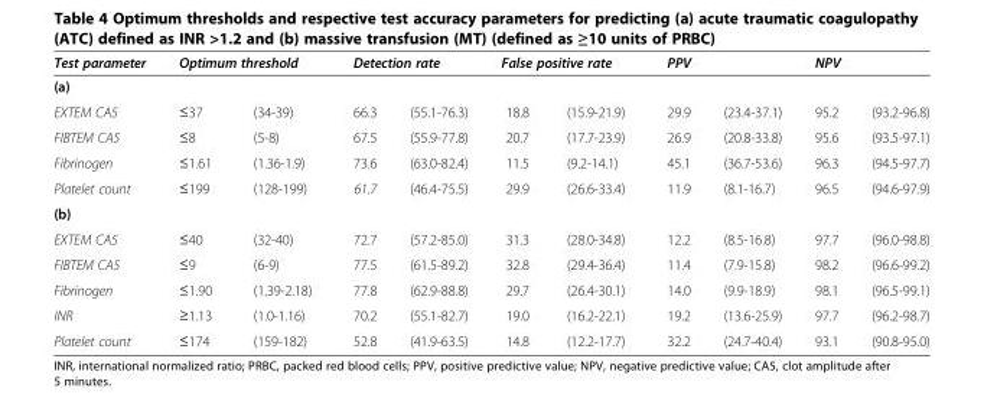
<table><thead><tr><td rowspan="3">Test parameter (a) EXTEM CA5</td><td colspan="2">Optimum threshold</td><td colspan="2">Detection rate</td><td colspan="2">False positive rate</td><td colspan="2">PPV</td><td colspan="2">NPV</td></tr><tr><td colspan="10"></td></tr><tr><td>≤37</td><td>(34-39)</td><td>66.3</td><td>(55.1-76.3)</td><td>18.8</td><td>(15.9-21.9)</td><td>29.9</td><td>(23.4-37.1)</td><td>95.2</td><td>(93.2-96.8)</td></tr></thead><tbody><tr><td>FIBTEM CA5</td><td>≤8</td><td>(5-8)</td><td>67.5</td><td>(55.9-77.8)</td><td>20.7</td><td>(17.7-23.9)</td><td>26.9</td><td>(20.8-33.8)</td><td>95.6</td><td>(93.5-97.1)</td></tr><tr><td>Fibrinogen</td><td>≤1.61</td><td>(1.36-1.9)</td><td>73.6</td><td>(63.0-82.4)</td><td>11.5</td><td>(9.2-14.1)</td><td>45.1</td><td>(36.7-53.6)</td><td>96.3</td><td>(94.5-97.7)</td></tr><tr><td>Platelet count</td><td>≤199</td><td>(128-199)</td><td>61.7</td><td>(46.4-75.5)</td><td>29.9</td><td>(26.6-33.4)</td><td>11.9</td><td>(8.1-16.7)</td><td>96.5</td><td>(94.6-97.9)</td></tr><tr><td colspan="11">(b)</td></tr><tr><td>EXTEM CA5</td><td>≤40</td><td>(32-40)</td><td>72.7</td><td>(57.2-85.0)</td><td>31.3</td><td>(28.0-34.8)</td><td>12.2</td><td>(8.5-16.8)</td><td>97.7</td><td>(96.0-98.8)</td></tr><tr><td>FIBTEM CA5</td><td>≤9</td><td>(6-9)</td><td>77.5</td><td>(61.5-89.2)</td><td>32.8</td><td>(29.4-36.4)</td><td>11.4</td><td>(7.9-15.8)</td><td>98.2</td><td>(96.6-99.2)</td></tr><tr><td>Fibrinogen</td><td>≤1.90</td><td>(1.39-2.18)</td><td>77.8</td><td>(62.9-88.8)</td><td>29.7</td><td>(26.4-30.1)</td><td>14.0</td><td>(9.9-18.9)</td><td>98.1</td><td>(96.5-99.1)</td></tr><tr><td>INR</td><td>≥1.13</td><td>(1.0-1.16)</td><td>70.2</td><td>(55.1-82.7)</td><td>19.0</td><td>(16.2-22.1)</td><td>19.2</td><td>(13.6-25.9)</td><td>97.7</td><td>(96.2-98.7)</td></tr><tr><td>Platelet count</td><td>≤174</td><td>(159-182)</td><td>52.8</td><td>(41.9-63.5)</td><td>14.8</td><td>(12.2-17.7)</td><td>32.2</td><td>(24.7-40.4)</td><td>93.1</td><td>(90.8-95.0)</td></tr></tbody></table>